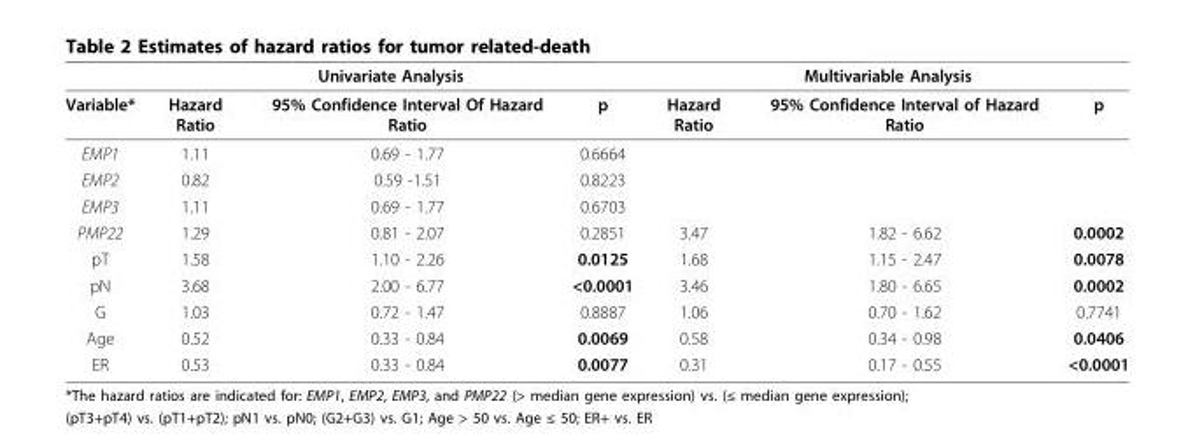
<table><thead><tr><td rowspan="2">Variable*</td><td colspan="3">Univariate Analysis</td><td colspan="3">Multivariable Analysis</td></tr><tr><td>Hazard Ratio</td><td>95% Confidence Interval Of Hazard Ratio</td><td>p</td><td>Hazard Ratio</td><td>95% Confidence Interval of Hazard Ratio</td><td>p</td></tr></thead><tbody><tr><td>EMP1</td><td>1.11</td><td>0.69 - 1.77</td><td>0.6664</td><td></td><td></td><td></td></tr><tr><td>EMP2</td><td>0.82</td><td>0.59 -1.51</td><td>0.8223</td><td></td><td></td><td></td></tr><tr><td>EMP3</td><td>1.11</td><td>0.69 - 1.77</td><td>0.6703</td><td></td><td></td><td></td></tr><tr><td>PMP22</td><td>1.29</td><td>0.81 - 2.07</td><td>0.2851</td><td>3.47</td><td>1.82 - 6.62</td><td>0.0002</td></tr><tr><td>pT</td><td>1.58</td><td>1.10 - 2.26</td><td>0.0125</td><td>1.68</td><td>1.15 - 2.47</td><td>0.0078</td></tr><tr><td>pN</td><td>3.68</td><td>2.00 - 6.77</td><td>&lt;0.0001</td><td>3.46</td><td>1.80 - 6.65</td><td>0.0002</td></tr><tr><td>G</td><td>1.03</td><td>0.72 - 1.47</td><td>0.8887</td><td>1.06</td><td>0.70 - 1.62</td><td>0.7741</td></tr><tr><td>Age</td><td>0.52</td><td>0.33 - 0.84</td><td>0.0069</td><td>0.58</td><td>0.34 - 0.98</td><td>0.0406</td></tr><tr><td>ER</td><td>0.53</td><td>0.33 - 0.84</td><td>0.0077</td><td>0.31</td><td>0.17 - 0.55</td><td>&lt;0.0001</td></tr></tbody></table>